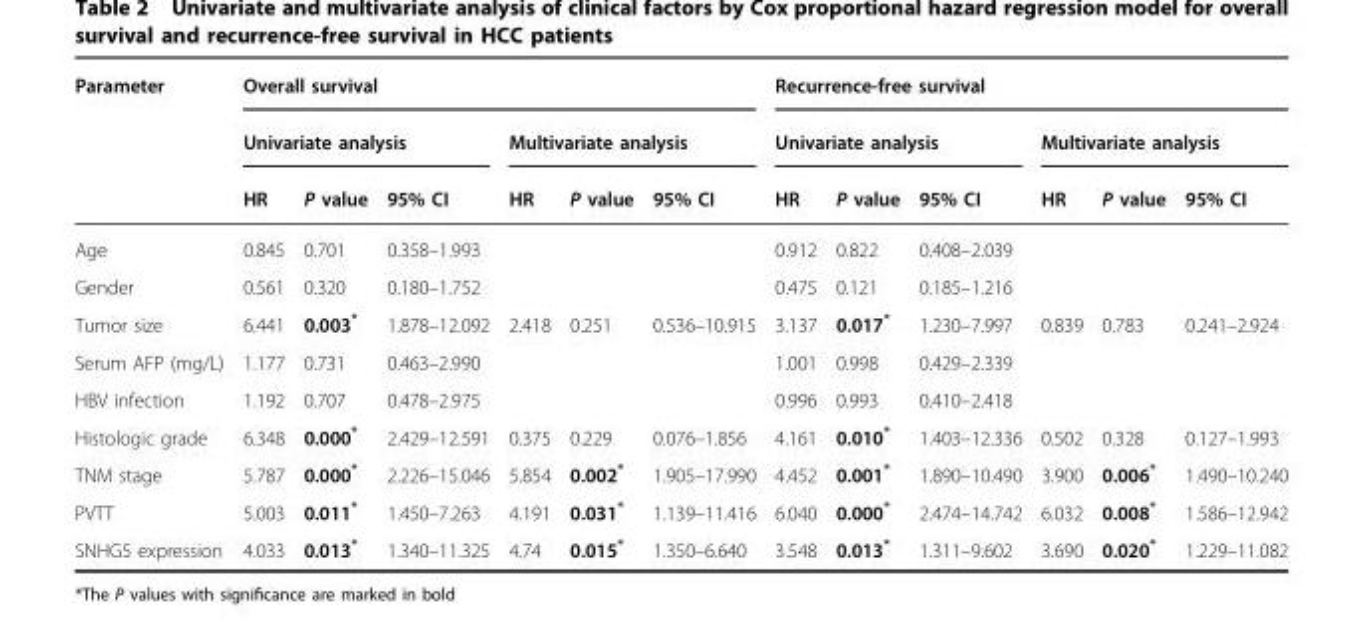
<table><thead><tr><td rowspan="3">Parameter</td><td colspan="6">Overall survival</td><td colspan="6">Recurrence-free survival</td></tr><tr><td colspan="3">Univariate analysis</td><td colspan="3">Multivariate analysis</td><td colspan="3">Univariate analysis</td><td colspan="3">Multivariate analysis</td></tr><tr><td>HR</td><td>P value</td><td>95% CI</td><td>HR</td><td>P value</td><td>95% CI</td><td>HR</td><td>P value</td><td>95% CI</td><td>HR</td><td>P value</td><td>95% CI</td></tr></thead><tbody><tr><td>Age</td><td>0.845</td><td>0.701</td><td>0.358–1.993</td><td></td><td></td><td></td><td>0.912</td><td>0.822</td><td>0.408–2.039</td><td></td><td></td><td></td></tr><tr><td>Gender</td><td>0.561</td><td>0.320</td><td>0.180–1.752</td><td></td><td></td><td></td><td>0.475</td><td>0.121</td><td>0.185–1.216</td><td></td><td></td><td></td></tr><tr><td>Tumor size</td><td>6.441</td><td>0.003*</td><td>1.878–12.092</td><td>2.418</td><td>0.251</td><td>0.536–10.915</td><td>3.137</td><td>0.017*</td><td>1.230–7.997</td><td>0.839</td><td>0.783</td><td>0.241–2.924</td></tr><tr><td>Serum AFP (mg/L)</td><td>1.177</td><td>0.731</td><td>0.463–2.990</td><td></td><td></td><td></td><td>1.001</td><td>0.998</td><td>0.429–2.339</td><td></td><td></td><td></td></tr><tr><td>HBV infection</td><td>1.192</td><td>0.707</td><td>0.478–2.975</td><td></td><td></td><td></td><td>0.996</td><td>0.993</td><td>0.410–2.418</td><td></td><td></td><td></td></tr><tr><td>Histologic grade</td><td>6.348</td><td>0.000*</td><td>2.429–12.591</td><td>0.375</td><td>0.229</td><td>0.076–1.856</td><td>4.161</td><td>0.010*</td><td>1.403–12.336</td><td>0.502</td><td>0.328</td><td>0.127–1.993</td></tr><tr><td>TNM stage</td><td>5.787</td><td>0.000*</td><td>2.226–15.046</td><td>5.854</td><td>0.002*</td><td>1.905–17.990</td><td>4.452</td><td>0.001*</td><td>1.890–10.490</td><td>3.900</td><td>0.006*</td><td>1.490–10.240</td></tr><tr><td>PVTT</td><td>5.003</td><td>0.011*</td><td>1.450–7.263</td><td>4.191</td><td>0.031*</td><td>1.139–11.416</td><td>6.040</td><td>0.000*</td><td>2.474–14.742</td><td>6.032</td><td>0.008*</td><td>1.586–12.942</td></tr><tr><td>SNHG5 expression</td><td>4.033</td><td>0.013*</td><td>1.340–11.325</td><td>4.74</td><td>0.015*</td><td>1.350–6.640</td><td>3.548</td><td>0.013*</td><td>1.311–9.602</td><td>3.690</td><td>0.020*</td><td>1.229–11.082</td></tr></tbody></table>